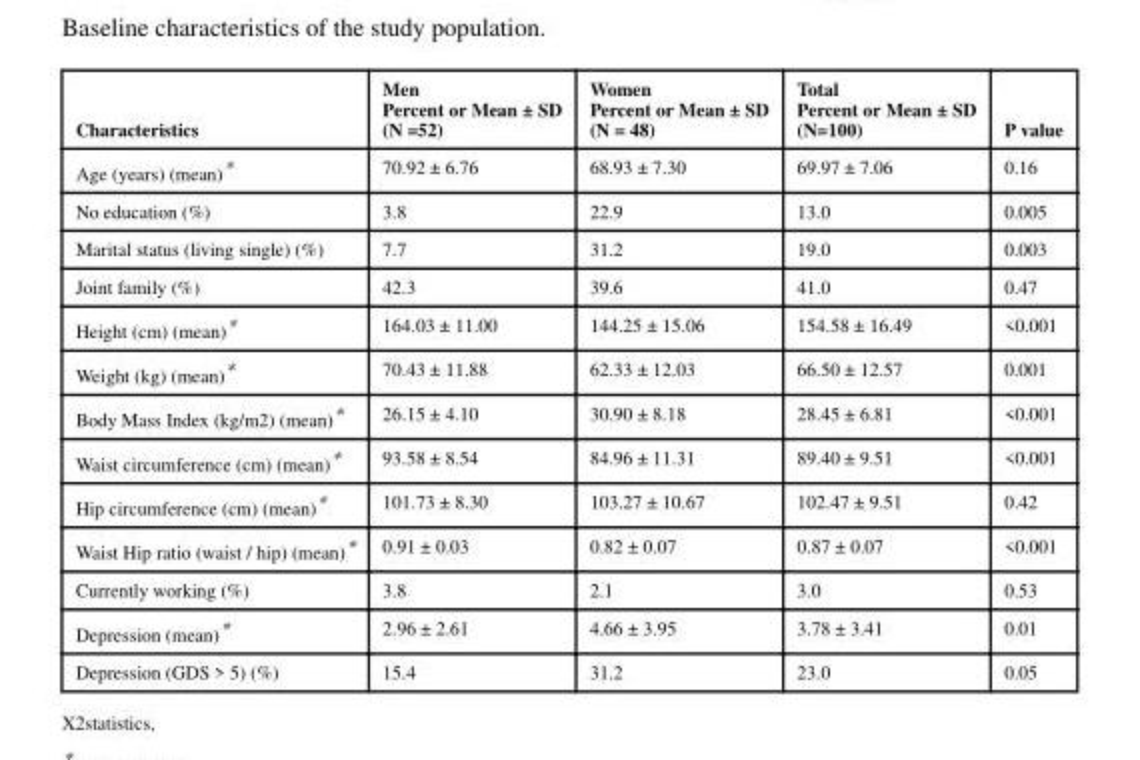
<table><thead><tr><td>Characteristics</td><td>Men Percent or Mean ± SD (N =52)</td><td>Women Percent or Mean ± SD (N = 48)</td><td>Total Percent or Mean ± SD (N=100)</td><td>P value</td></tr></thead><tbody><tr><td>Age (years) (mean)*</td><td>70.92 ± 6.76</td><td>68.93 ± 7.30</td><td>69.97 ± 7.06</td><td>0.16</td></tr><tr><td>No education (%)</td><td>3.8</td><td>22.9</td><td>13.0</td><td>0.005</td></tr><tr><td>Marital status (living single) (%)</td><td>7.7</td><td>31.2</td><td>19.0</td><td>0.003</td></tr><tr><td>Joint family (%)</td><td>42.3</td><td>39.6</td><td>41.0</td><td>0.47</td></tr><tr><td>Height (cm) (mean)*</td><td>164.03 ± 11.00</td><td>144.25 ± 15.06</td><td>154.58 ± 16.49</td><td>&lt;0.001</td></tr><tr><td>Weight (kg) (mean)*</td><td>70.43 ± 11.88</td><td>62.33 ± 12.03</td><td>66.50 ± 12.57</td><td>0.001</td></tr><tr><td>Body Mass Index (kg/m2) (mean)*</td><td>26.15 ± 4.10</td><td>30.90 ± 8.18</td><td>28.45 ± 6.81</td><td>&lt;0.001</td></tr><tr><td>Waist circumference (cm) (mean)*</td><td>93.58 ± 8.54</td><td>84.96 ± 11.31</td><td>89.40 ± 9.51</td><td>&lt;0.001</td></tr><tr><td>Hip circumference (cm) (mean)*</td><td>101.73 ± 8.30</td><td>103.27 ± 10.67</td><td>102.47 ± 9.51</td><td>0.42</td></tr><tr><td>Waist Hip ratio (waist / hip) (mean)*</td><td>0.91 ± 0.03</td><td>0.82 ± 0.07</td><td>0.87 ± 0.07</td><td>&lt;0.001</td></tr><tr><td>Currently working (%)</td><td>3.8</td><td>2.1</td><td>3.0</td><td>0.53</td></tr><tr><td>Depression (mean)*</td><td>2.96 ± 2.61</td><td>4.66 ± 3.95</td><td>3.78 ± 3.41</td><td>0.01</td></tr><tr><td>Depression (GDS &gt; 5) (%)</td><td>15.4</td><td>31.2</td><td>23.0</td><td>0.05</td></tr></tbody></table>